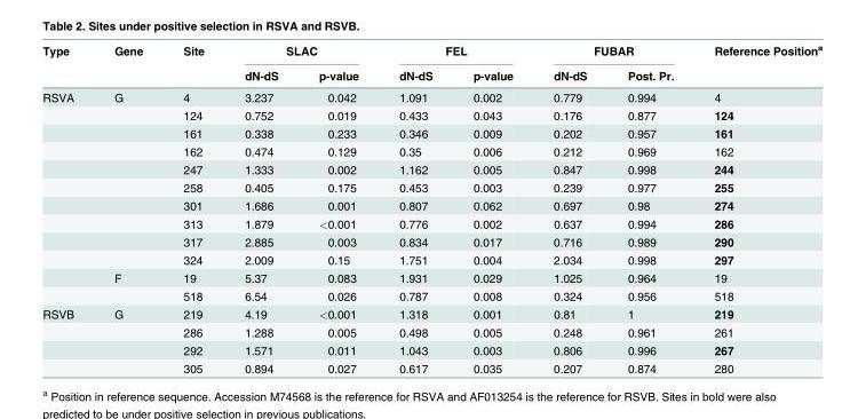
<table><thead><tr><td rowspan="2">Type</td><td rowspan="2">Gene</td><td rowspan="2">Site</td><td colspan="2">SLAC</td><td colspan="2">FEL</td><td colspan="2">FUBAR</td><td rowspan="2">Reference Position<sup>a</sup></td></tr><tr><td>dN-dS</td><td>p-value</td><td>dN-dS</td><td>p-value</td><td>dN-dS</td><td>Post. Pr.</td></tr></thead><tbody><tr><td rowspan="12">RSVA</td><td>G</td><td>4</td><td>3.237</td><td>0.042</td><td>1.091</td><td>0.002</td><td>0.779</td><td>0.994</td><td>4</td></tr><tr><td></td><td>124</td><td>0.752</td><td>0.019</td><td>0.433</td><td>0.043</td><td>0.176</td><td>0.877</td><td>124</td></tr><tr><td></td><td>161</td><td>0.338</td><td>0.233</td><td>0.346</td><td>0.009</td><td>0.202</td><td>0.957</td><td>161</td></tr><tr><td></td><td>162</td><td>0.474</td><td>0.129</td><td>0.35</td><td>0.006</td><td>0.212</td><td>0.969</td><td>162</td></tr><tr><td></td><td>247</td><td>1.333</td><td>0.002</td><td>1.162</td><td>0.005</td><td>0.847</td><td>0.998</td><td>244</td></tr><tr><td></td><td>258</td><td>0.405</td><td>0.175</td><td>0.453</td><td>0.003</td><td>0.239</td><td>0.977</td><td>255</td></tr><tr><td></td><td>301</td><td>1.686</td><td>0.001</td><td>0.807</td><td>0.062</td><td>0.697</td><td>0.98</td><td>274</td></tr><tr><td></td><td>313</td><td>1.879</td><td>&lt;0.001</td><td>0.776</td><td>0.002</td><td>0.637</td><td>0.994</td><td>286</td></tr><tr><td></td><td>317</td><td>2.885</td><td>0.003</td><td>0.834</td><td>0.017</td><td>0.716</td><td>0.989</td><td>290</td></tr><tr><td></td><td>324</td><td>2.009</td><td>0.15</td><td>1.751</td><td>0.004</td><td>2.034</td><td>0.998</td><td>297</td></tr><tr><td>F</td><td>19</td><td>5.37</td><td>0.083</td><td>1.931</td><td>0.029</td><td>1.025</td><td>0.964</td><td>19</td></tr><tr><td></td><td>518</td><td>6.54</td><td>0.026</td><td>0.787</td><td>0.008</td><td>0.324</td><td>0.956</td><td>518</td></tr><tr><td rowspan="4">RSVB</td><td>G</td><td>219</td><td>4.19</td><td>&lt;0.001</td><td>1.318</td><td>0.001</td><td>0.81</td><td>1</td><td>219</td></tr><tr><td></td><td>286</td><td>1.288</td><td>0.005</td><td>0.498</td><td>0.005</td><td>0.248</td><td>0.961</td><td>261</td></tr><tr><td></td><td>292</td><td>1.571</td><td>0.011</td><td>1.043</td><td>0.003</td><td>0.806</td><td>0.996</td><td>267</td></tr><tr><td></td><td>305</td><td>0.894</td><td>0.027</td><td>0.617</td><td>0.035</td><td>0.207</td><td>0.874</td><td>280</td></tr></tbody></table>